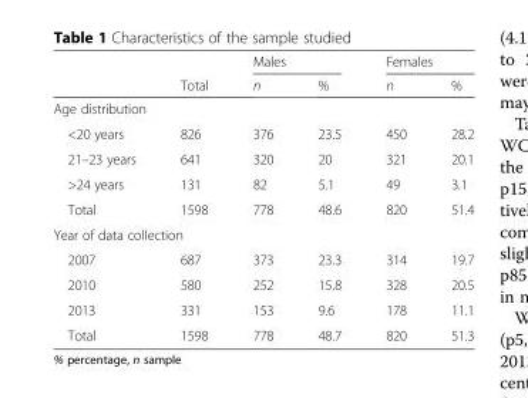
<table><thead><tr><td rowspan="2"></td><td rowspan="2">Total</td><td colspan="2">Males</td><td colspan="2">Females</td></tr><tr><td>n</td><td>%</td><td>n</td><td>%</td></tr></thead><tbody><tr><td colspan="6">Age distribution</td></tr><tr><td>&lt;20 years</td><td>826</td><td>376</td><td>23.5</td><td>450</td><td>28.2</td></tr><tr><td>21–23 years</td><td>641</td><td>320</td><td>20</td><td>321</td><td>20.1</td></tr><tr><td>&gt;24 years</td><td>131</td><td>82</td><td>5.1</td><td>49</td><td>3.1</td></tr><tr><td>Total</td><td>1598</td><td>778</td><td>48.6</td><td>820</td><td>51.4</td></tr><tr><td colspan="6">Year of data collection</td></tr><tr><td>2007</td><td>687</td><td>373</td><td>23.3</td><td>314</td><td>19.7</td></tr><tr><td>2010</td><td>580</td><td>252</td><td>15.8</td><td>328</td><td>20.5</td></tr><tr><td>2013</td><td>331</td><td>153</td><td>9.6</td><td>178</td><td>11.1</td></tr><tr><td>Total</td><td>1598</td><td>778</td><td>48.7</td><td>820</td><td>51.3</td></tr></tbody></table>